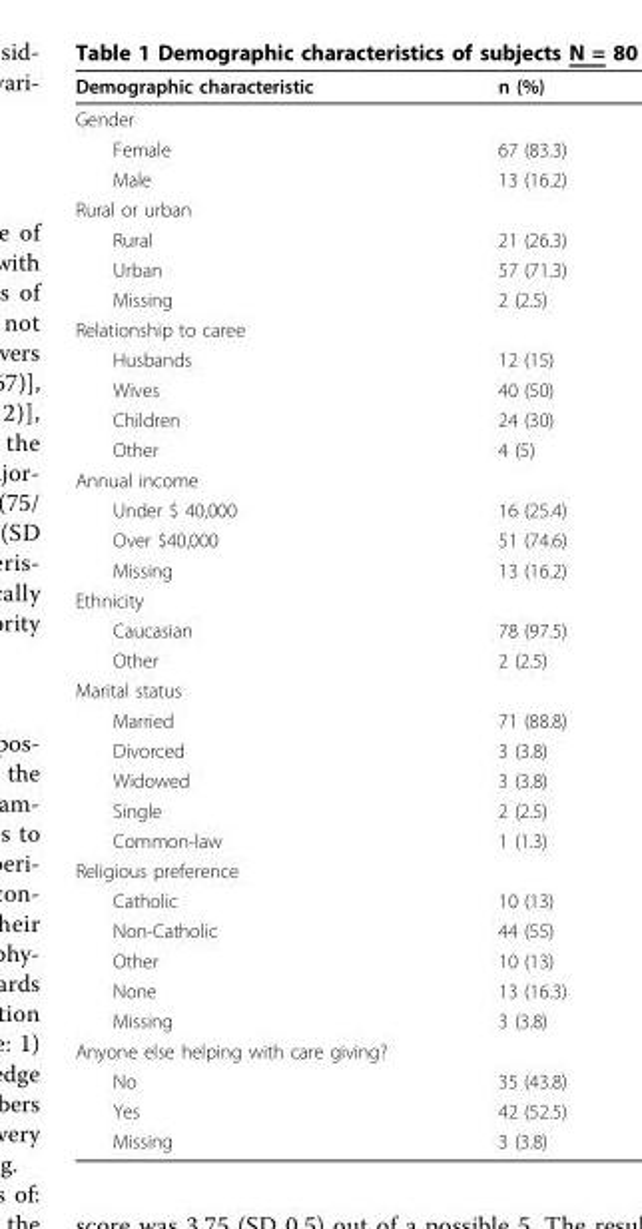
<table><thead><tr><td>Demographic characteristic</td><td>n (%)</td></tr></thead><tbody><tr><td colspan="2">Gender</td></tr><tr><td>Female</td><td>67 (83.3)</td></tr><tr><td>Male</td><td>13 (16.2)</td></tr><tr><td colspan="2">Rural or urban</td></tr><tr><td>Rural</td><td>21 (26.3)</td></tr><tr><td>Urban</td><td>57 (71.3)</td></tr><tr><td>Missing</td><td>2 (2.5)</td></tr><tr><td colspan="2">Relationship to caree</td></tr><tr><td>Husbands</td><td>12 (15)</td></tr><tr><td>Wives</td><td>40 (50)</td></tr><tr><td>Children</td><td>24 (30)</td></tr><tr><td>Other</td><td>4 (5)</td></tr><tr><td colspan="2">Annual income</td></tr><tr><td>Under $ 40,000</td><td>16 (25.4)</td></tr><tr><td>Over $40,000</td><td>51 (74.6)</td></tr><tr><td>Missing</td><td>13 (16.2)</td></tr><tr><td colspan="2">Ethnicity</td></tr><tr><td>Caucasian</td><td>78 (97.5)</td></tr><tr><td>Other</td><td>2 (2.5)</td></tr><tr><td colspan="2">Marital status</td></tr><tr><td>Married</td><td>71 (88.8)</td></tr><tr><td>Divorced</td><td>3 (3.8)</td></tr><tr><td>Widowed</td><td>3 (3.8)</td></tr><tr><td>Single</td><td>2 (2.5)</td></tr><tr><td>Common-law</td><td>1 (1.3)</td></tr><tr><td colspan="2">Religious preference</td></tr><tr><td>Catholic</td><td>10 (13)</td></tr><tr><td>Non-Catholic</td><td>44 (55)</td></tr><tr><td>Other</td><td>10 (13)</td></tr><tr><td>None</td><td>13 (16.3)</td></tr><tr><td>Missing</td><td>3 (3.8)</td></tr><tr><td colspan="2">Anyone else helping with care giving?</td></tr><tr><td>No</td><td>35 (43.8)</td></tr><tr><td>Yes</td><td>42 (52.5)</td></tr><tr><td>Missing</td><td>3 (3.8)</td></tr></tbody></table>